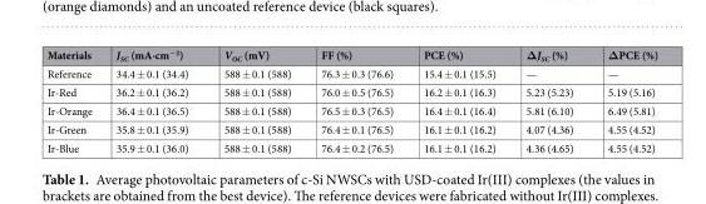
<table><thead><tr><td>Materials</td><td>J<sub>SC</sub> (mA·cm<sup>−2</sup>)</td><td>V<sub>OC</sub> (mV)</td><td>FF (%)</td><td>PCE (%)</td><td>ΔJ<sub>SC</sub> (%)</td><td>ΔPCE (%)</td></tr></thead><tbody><tr><td>Reference</td><td>34.4 ± 0.1 (34.4)</td><td>588 ± 0.1 (588)</td><td>76.3 ± 0.3 (76.6)</td><td>15.4 ± 0.1 (15.5)</td><td>—</td><td>—</td></tr><tr><td>Ir-Red</td><td>36.2 ± 0.1 (36.2)</td><td>588 ± 0.1 (588)</td><td>76.0 ± 0.5 (76.5)</td><td>16.2 ± 0.1 (16.3)</td><td>5.23 (5.23)</td><td>5.19 (5.16)</td></tr><tr><td>Ir-Orange</td><td>36.4 ± 0.1 (36.5)</td><td>588 ± 0.1 (588)</td><td>76.5 ± 0.3 (76.5)</td><td>16.4 ± 0.1 (16.4)</td><td>5.81 (6.10)</td><td>6.49 (5.81)</td></tr><tr><td>Ir-Green</td><td>35.8 ± 0.1 (35.9)</td><td>588 ± 0.1 (588)</td><td>76.4 ± 0.1 (76.5)</td><td>16.1 ± 0.1 (16.2)</td><td>4.07 (4.36)</td><td>4.55 (4.52)</td></tr><tr><td>Ir-Blue</td><td>35.9 ± 0.1 (36.0)</td><td>588 ± 0.1 (588)</td><td>76.4 ± 0.2 (76.5)</td><td>16.1 ± 0.1 (16.2)</td><td>4.36 (4.65)</td><td>4.55 (4.52)</td></tr></tbody></table>